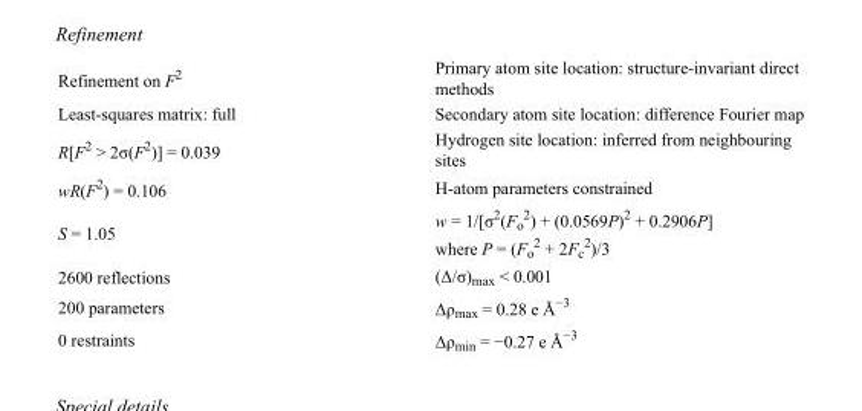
<table><tbody><tr><td>Refinement on F<sup>2</sup></td><td>Primary atom site location: structure-invariant direct methods</td></tr><tr><td>Least-squares matrix: full</td><td>Secondary atom site location: difference Fourier map</td></tr><tr><td>R[F<sup>2</sup> &gt; 2σ(F<sup>2</sup>)] = 0.039</td><td>Hydrogen site location: inferred from neighbouring sites</td></tr><tr><td>wR(F<sup>2</sup>) = 0.106</td><td>H-atom parameters constrained</td></tr><tr><td>S = 1.05</td><td>w = 1/[σ<sup>2</sup>(F<sub>o</sub> <sup>2</sup>) + (0.0569P)<sup>2</sup> + 0.2906P] where P = (F<sub>o</sub> <sup>2</sup> + 2F<sub>c</sub> <sup>2</sup>)/3</td></tr><tr><td>2600 reflections</td><td>(Δ/σ)<sub>max</sub> &lt; 0.001</td></tr><tr><td>200 parameters</td><td>Δρ<sub>max</sub> = 0.28 e Å<sup>−3</sup></td></tr><tr><td>0 restraints</td><td>Δρ<sub>min</sub> = −0.27 e Å<sup>−3</sup></td></tr></tbody></table>